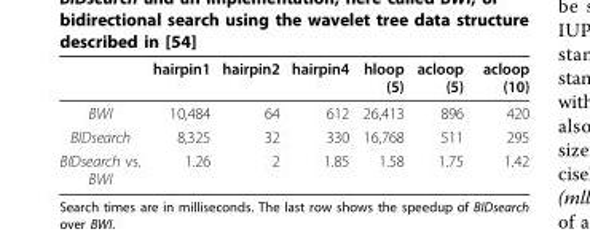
<table><thead><tr><td></td><td>hairpin1</td><td>hairpin2</td><td>hairpin4</td><td>hloop (5)</td><td>acloop (5)</td><td>acloop (10)</td></tr></thead><tbody><tr><td>BWI</td><td>10,484</td><td>64</td><td>612</td><td>26,413</td><td>896</td><td>420</td></tr><tr><td>BIDsearch</td><td>8,325</td><td>32</td><td>330</td><td>16,768</td><td>511</td><td>295</td></tr><tr><td>BIDsearch vs. BWI</td><td>1.26</td><td>2</td><td>1.85</td><td>1.58</td><td>1.75</td><td>1.42</td></tr></tbody></table>